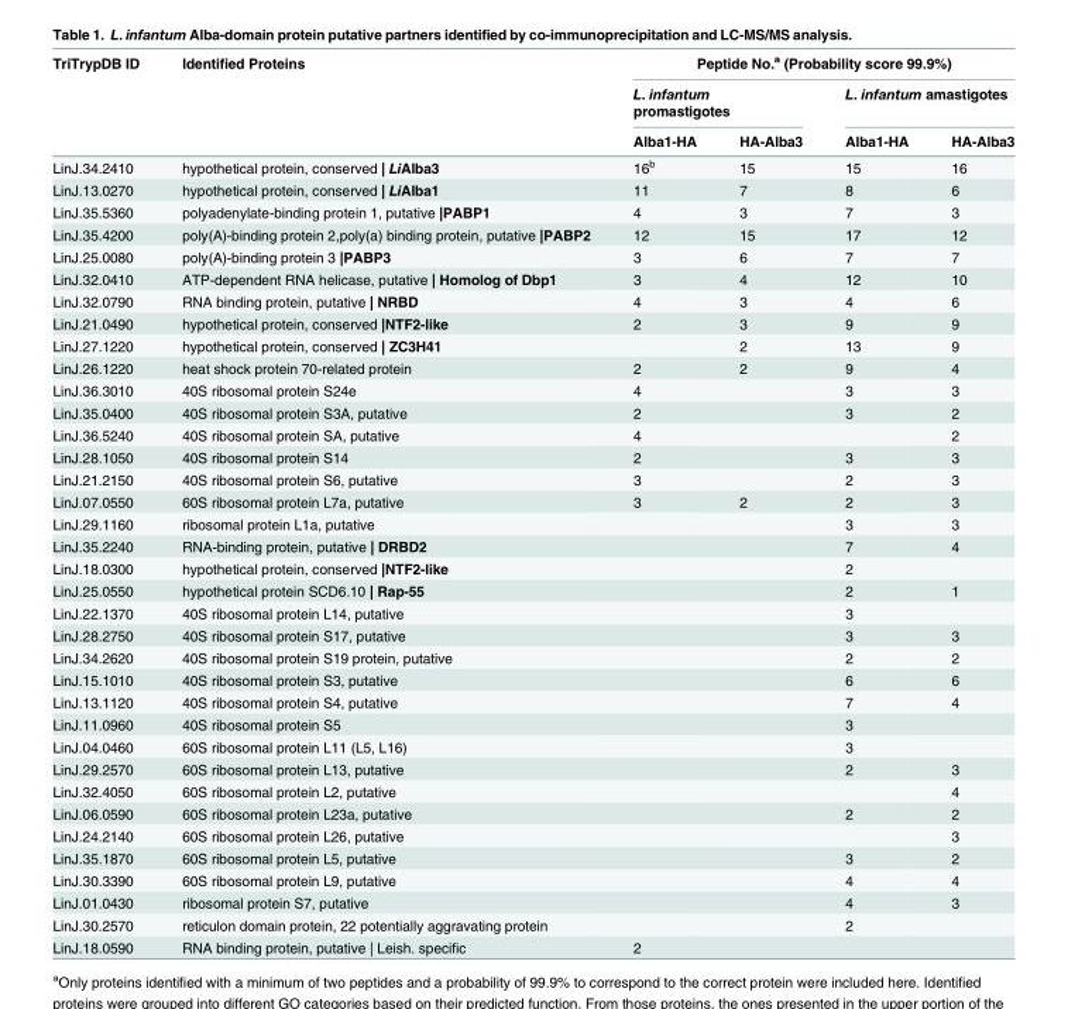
<table><thead><tr><td rowspan="3">TriTrypDB ID</td><td rowspan="3">Identified Proteins</td><td colspan="4">Peptide No.<sup>a</sup> (Probability score 99.9%)</td></tr><tr><td colspan="2">L. infantum promastigotes</td><td colspan="2">L. infantum amastigotes</td></tr><tr><td>Alba1-HA</td><td>HA-Alba3</td><td>Alba1-HA</td><td>HA-Alba3</td></tr></thead><tbody><tr><td>LinJ.34.2410</td><td>hypothetical protein, conserved | LiAlba3</td><td>16<sup>b</sup></td><td>15</td><td>15</td><td>16</td></tr><tr><td>LinJ.13.0270</td><td>hypothetical protein, conserved | LiAlba1</td><td>11</td><td>7</td><td>8</td><td>6</td></tr><tr><td>LinJ.35.5360</td><td>polyadenylate-binding protein 1, putative |PABP1</td><td>4</td><td>3</td><td>7</td><td>3</td></tr><tr><td>LinJ.35.4200</td><td>poly(A)-binding protein 2,poly(a) binding protein, putative |PABP2</td><td>12</td><td>15</td><td>17</td><td>12</td></tr><tr><td>LinJ.25.0080</td><td>poly(A)-binding protein 3 |PABP3</td><td>3</td><td>6</td><td>7</td><td>7</td></tr><tr><td>LinJ.32.0410</td><td>ATP-dependent RNA helicase, putative | Homolog of Dbp1</td><td>3</td><td>4</td><td>12</td><td>10</td></tr><tr><td>LinJ.32.0790</td><td>RNA binding protein, putative | NRBD</td><td>4</td><td>3</td><td>4</td><td>6</td></tr><tr><td>LinJ.21.0490</td><td>hypothetical protein, conserved |NTF2-like</td><td>2</td><td>3</td><td>9</td><td>9</td></tr><tr><td>LinJ.27.1220</td><td>hypothetical protein, conserved | ZC3H41</td><td></td><td>2</td><td>13</td><td>9</td></tr><tr><td>LinJ.26.1220</td><td>heat shock protein 70-related protein</td><td>2</td><td>2</td><td>9</td><td>4</td></tr><tr><td>LinJ.36.3010</td><td>40S ribosomal protein S24e</td><td>4</td><td></td><td>3</td><td>3</td></tr><tr><td>LinJ.35.0400</td><td>40S ribosomal protein S3A, putative</td><td>2</td><td></td><td>3</td><td>2</td></tr><tr><td>LinJ.36.5240</td><td>40S ribosomal protein SA, putative</td><td>4</td><td></td><td></td><td>2</td></tr><tr><td>LinJ.28.1050</td><td>40S ribosomal protein S14</td><td>2</td><td></td><td>3</td><td>3</td></tr><tr><td>LinJ.21.2150</td><td>40S ribosomal protein S6, putative</td><td>3</td><td></td><td>2</td><td>3</td></tr><tr><td>LinJ.07.0550</td><td>60S ribosomal protein L7a, putative</td><td>3</td><td>2</td><td>2</td><td>3</td></tr><tr><td>LinJ.29.1160</td><td>ribosomal protein L1a, putative</td><td></td><td></td><td>3</td><td>3</td></tr><tr><td>LinJ.35.2240</td><td>RNA-binding protein, putative | DRBD2</td><td></td><td></td><td>7</td><td>4</td></tr><tr><td>LinJ.18.0300</td><td>hypothetical protein, conserved |NTF2-like</td><td></td><td></td><td>2</td><td></td></tr><tr><td>LinJ.25.0550</td><td>hypothetical protein SCD6.10 | Rap-55</td><td></td><td></td><td>2</td><td>1</td></tr><tr><td>LinJ.22.1370</td><td>40S ribosomal protein L14, putative</td><td></td><td></td><td>3</td><td></td></tr><tr><td>LinJ.28.2750</td><td>40S ribosomal protein S17, putative</td><td></td><td></td><td>3</td><td>3</td></tr><tr><td>LinJ.34.2620</td><td>40S ribosomal protein S19 protein, putative</td><td></td><td></td><td>2</td><td>2</td></tr><tr><td>LinJ.15.1010</td><td>40S ribosomal protein S3, putative</td><td></td><td></td><td>6</td><td>6</td></tr><tr><td>LinJ.13.1120</td><td>40S ribosomal protein S4, putative</td><td></td><td></td><td>7</td><td>4</td></tr><tr><td>LinJ.11.0960</td><td>40S ribosomal protein S5</td><td></td><td></td><td>3</td><td></td></tr><tr><td>LinJ.04.0460</td><td>60S ribosomal protein L11 (L5, L16)</td><td></td><td></td><td>3</td><td></td></tr><tr><td>LinJ.29.2570</td><td>60S ribosomal protein L13, putative</td><td></td><td></td><td>2</td><td>3</td></tr><tr><td>LinJ.32.4050</td><td>60S ribosomal protein L2, putative</td><td></td><td></td><td></td><td>4</td></tr><tr><td>LinJ.06.0590</td><td>60S ribosomal protein L23a, putative</td><td></td><td></td><td>2</td><td>2</td></tr><tr><td>LinJ.24.2140</td><td>60S ribosomal protein L26, putative</td><td></td><td></td><td></td><td>3</td></tr><tr><td>LinJ.35.1870</td><td>60S ribosomal protein L5, putative</td><td></td><td></td><td>3</td><td>2</td></tr><tr><td>LinJ.30.3390</td><td>60S ribosomal protein L9, putative</td><td></td><td></td><td>4</td><td>4</td></tr><tr><td>LinJ.01.0430</td><td>ribosomal protein S7, putative</td><td></td><td></td><td>4</td><td>3</td></tr><tr><td>LinJ.30.2570</td><td>reticulon domain protein, 22 potentially aggravating protein</td><td></td><td></td><td>2</td><td></td></tr><tr><td>LinJ.18.0590</td><td>RNA binding protein, putative | Leish. specific</td><td>2</td><td></td><td></td><td></td></tr></tbody></table>